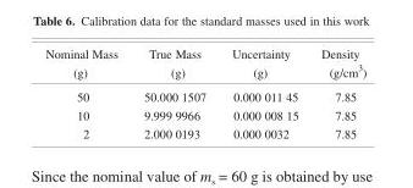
<table><thead><tr><td>Nominal Mass (g)</td><td>True Mass (g)</td><td>Uncertainty (g)</td><td>Density (g/cm<sup>3</sup>)</td></tr></thead><tbody><tr><td>50</td><td>50.000 1507</td><td>0.000 011 45</td><td>7.85</td></tr><tr><td>10</td><td>9.999 9966</td><td>0.000 008 15</td><td>7.85</td></tr><tr><td>2</td><td>2.000 0193</td><td>0.000 0032</td><td>7.85</td></tr></tbody></table>